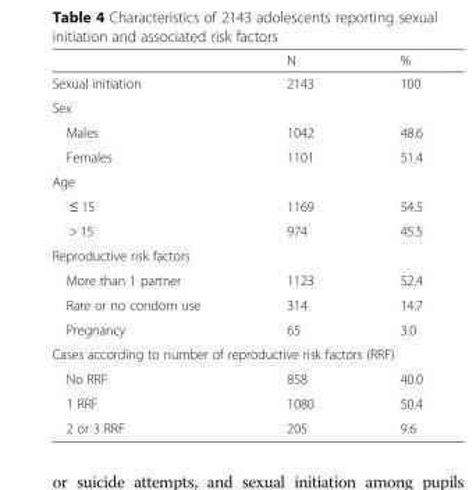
<table><thead><tr><td></td><td>N</td><td>%</td></tr></thead><tbody><tr><td>Sexual initiation</td><td>2143</td><td>100</td></tr><tr><td colspan="3">Sex</td></tr><tr><td>Males</td><td>1042</td><td>48.6</td></tr><tr><td>Females</td><td>1101</td><td>51.4</td></tr><tr><td colspan="3">Age</td></tr><tr><td>≤ 15</td><td>1169</td><td>54.5</td></tr><tr><td>&gt; 15</td><td>974</td><td>45.5</td></tr><tr><td colspan="3">Reproductive risk factors</td></tr><tr><td>More than 1 partner</td><td>1123</td><td>52.4</td></tr><tr><td>Rare or no condom use</td><td>314</td><td>14.7</td></tr><tr><td>Pregnancy</td><td>65</td><td>3.0</td></tr><tr><td colspan="3">Cases according to number of reproductive risk factors (RRF)</td></tr><tr><td>No RRF</td><td>858</td><td>40.0</td></tr><tr><td>1 RRF</td><td>1080</td><td>50.4</td></tr><tr><td>2 or 3 RRF</td><td>205</td><td>9.6</td></tr></tbody></table>